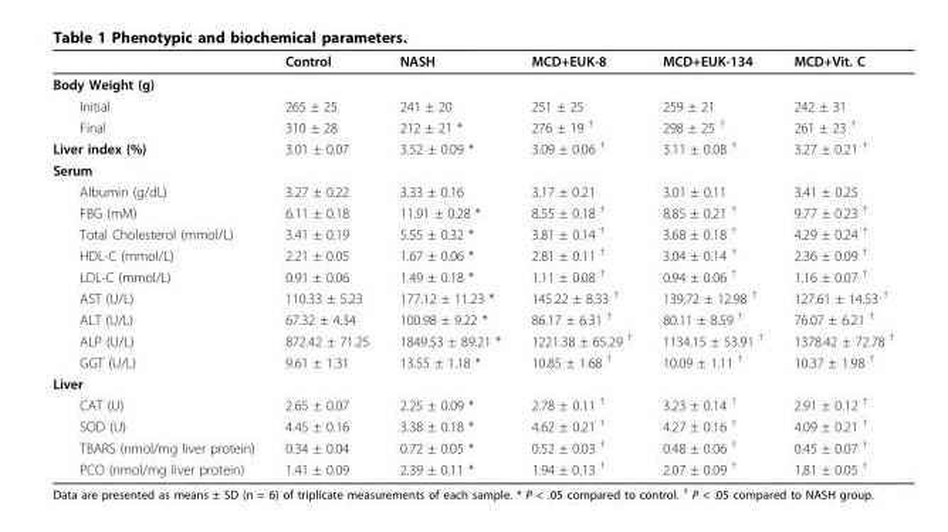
<table><thead><tr><td></td><td>Control</td><td>NASH</td><td>MCD+EUK-8</td><td>MCD+EUK-134</td><td>MCD+Vit. C</td></tr></thead><tbody><tr><td colspan="6">Body Weight (g)</td></tr><tr><td>Initial</td><td>265 ± 25</td><td>241 ± 20</td><td>251 ± 25</td><td>259 ± 21</td><td>242 ± 31</td></tr><tr><td>Final</td><td>310 ± 28</td><td>212 ± 21 *</td><td>276 ± 19 <sup>†</sup></td><td>298 ± 25 <sup>†</sup></td><td>261 ± 23 <sup>†</sup></td></tr><tr><td>Liver index (%)</td><td>3.01 ± 0.07</td><td>3.52 ± 0.09 *</td><td>3.09 ± 0.06 <sup>†</sup></td><td>3.11 ± 0.08 <sup>†</sup></td><td>3.27 ± 0.21 <sup>†</sup></td></tr><tr><td colspan="6">Serum</td></tr><tr><td>Albumin (g/dL)</td><td>3.27 ± 0.22</td><td>3.33 ± 0.16</td><td>3.17 ± 0.21</td><td>3.01 ± 0.11</td><td>3.41 ± 0.25</td></tr><tr><td>FBG (mM)</td><td>6.11 ± 0.18</td><td>11.91 ± 0.28 *</td><td>8.55 ± 0.18 <sup>†</sup></td><td>8.85 ± 0.21 <sup>†</sup></td><td>9.77 ± 0.23 <sup>†</sup></td></tr><tr><td>Total Cholesterol (mmol/L)</td><td>3.41 ± 0.19</td><td>5.55 ± 0.32 *</td><td>3.81 ± 0.14 <sup>†</sup></td><td>3.68 ± 0.18 <sup>†</sup></td><td>4.29 ± 0.24 <sup>†</sup></td></tr><tr><td>HDL-C (mmol/L)</td><td>2.21 ± 0.05</td><td>1.67 ± 0.06 *</td><td>2.81 ± 0.11 <sup>†</sup></td><td>3.04 ± 0.14 <sup>†</sup></td><td>2.36 ± 0.09 <sup>†</sup></td></tr><tr><td>LDL-C (mmol/L)</td><td>0.91 ± 0.06</td><td>1.49 ± 0.18 *</td><td>1.11 ± 0.08 <sup>†</sup></td><td>0.94 ± 0.06 <sup>†</sup></td><td>1.16 ± 0.07 <sup>†</sup></td></tr><tr><td>AST (U/L)</td><td>110.33 ± 5.23</td><td>177.12 ± 11.23 *</td><td>145.22 ± 8.33 <sup>†</sup></td><td>139.72 ± 12.98 <sup>†</sup></td><td>127.61 ± 14.53 <sup>†</sup></td></tr><tr><td>ALT (U/L)</td><td>67.32 ± 4.34</td><td>100.98 ± 9.22 *</td><td>86.17 ± 6.31 <sup>†</sup></td><td>80.11 ± 8.59 <sup>†</sup></td><td>76.07 ± 6.21 <sup>†</sup></td></tr><tr><td>ALP (U/L)</td><td>872.42 ± 71.25</td><td>1849.53 ± 89.21 *</td><td>1221.38 ± 65.29 <sup>†</sup></td><td>1134.15 ± 53.91 <sup>†</sup></td><td>1378.42 ± 72.78 <sup>†</sup></td></tr><tr><td>GGT (U/L)</td><td>9.61 ± 1.31</td><td>13.55 ± 1.18 *</td><td>10.85 ± 1.68 <sup>†</sup></td><td>10.09 ± 1.11 <sup>†</sup></td><td>10.37 ± 1.98 <sup>†</sup></td></tr><tr><td colspan="6">Liver</td></tr><tr><td>CAT (U)</td><td>2.65 ± 0.07</td><td>2.25 ± 0.09 *</td><td>2.78 ± 0.11 <sup>†</sup></td><td>3.23 ± 0.14 <sup>†</sup></td><td>2.91 ± 0.12 <sup>†</sup></td></tr><tr><td>SOD (U)</td><td>4.45 ± 0.16</td><td>3.38 ± 0.18 *</td><td>4.62 ± 0.21 <sup>†</sup></td><td>4.27 ± 0.16 <sup>†</sup></td><td>4.09 ± 0.21 <sup>†</sup></td></tr><tr><td>TBARS (nmol/mg liver protein)</td><td>0.34 ± 0.04</td><td>0.72 ± 0.05 *</td><td>0.52 ± 0.03 <sup>†</sup></td><td>0.48 ± 0.06 <sup>†</sup></td><td>0.45 ± 0.07 <sup>†</sup></td></tr><tr><td>PCO (nmol/mg liver protein)</td><td>1.41 ± 0.09</td><td>2.39 ± 0.11 *</td><td>1.94 ± 0.13 <sup>†</sup></td><td>2.07 ± 0.09 <sup>†</sup></td><td>1.81 ± 0.05 <sup>†</sup></td></tr></tbody></table>